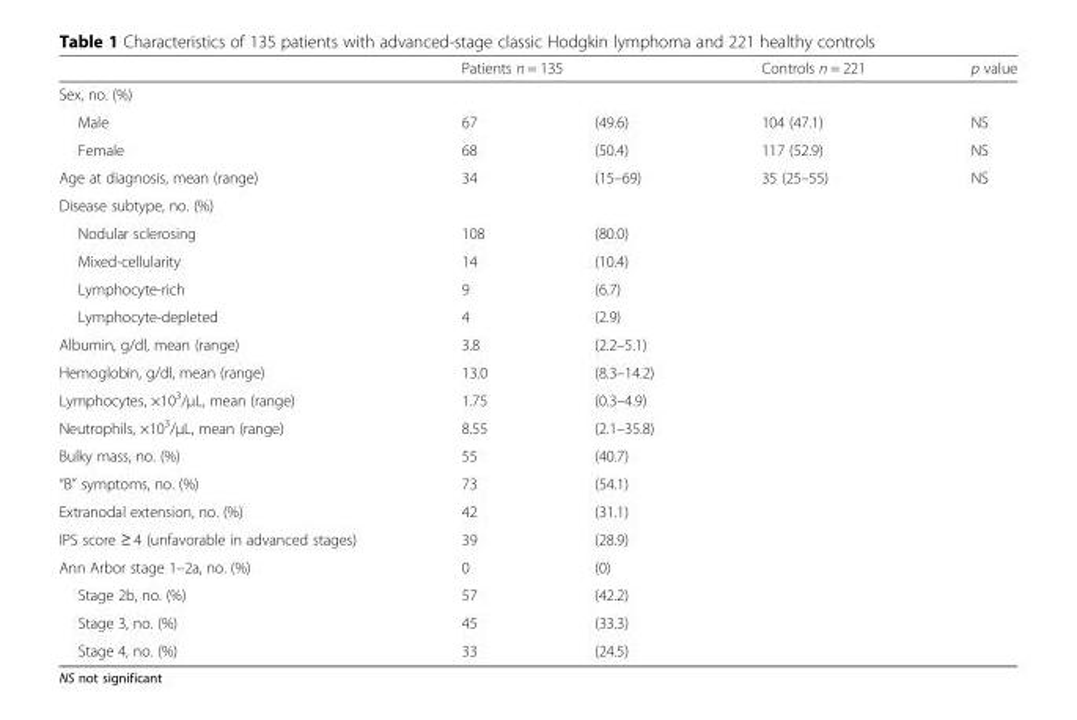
<table><thead><tr><td rowspan="2">Sex, no. (%)</td><td colspan="2">Patients n = 135</td><td rowspan="2">Controls n = 221</td><td rowspan="2">p value</td></tr><tr><td></td><td></td></tr></thead><tbody><tr><td>Male</td><td>67</td><td>(49.6)</td><td>104 (47.1)</td><td>NS</td></tr><tr><td>Female</td><td>68</td><td>(50.4)</td><td>117 (52.9)</td><td>NS</td></tr><tr><td>Age at diagnosis, mean (range)</td><td>34</td><td>(15–69)</td><td>35 (25–55)</td><td>NS</td></tr><tr><td colspan="5">Disease subtype, no. (%)</td></tr><tr><td>Nodular sclerosing</td><td>108</td><td>(80.0)</td><td></td><td></td></tr><tr><td>Mixed-cellularity</td><td>14</td><td>(10.4)</td><td></td><td></td></tr><tr><td>Lymphocyte-rich</td><td>9</td><td>(6.7)</td><td></td><td></td></tr><tr><td>Lymphocyte-depleted</td><td>4</td><td>(2.9)</td><td></td><td></td></tr><tr><td>Albumin, g/dl, mean (range)</td><td>3.8</td><td>(2.2–5.1)</td><td></td><td></td></tr><tr><td>Hemoglobin, g/dl, mean (range)</td><td>13.0</td><td>(8.3–14.2)</td><td></td><td></td></tr><tr><td>Lymphocytes, ×10<sup>3</sup>/μL, mean (range)</td><td>1.75</td><td>(0.3–4.9)</td><td></td><td></td></tr><tr><td>Neutrophils, ×10<sup>3</sup>/μL, mean (range)</td><td>8.55</td><td>(2.1–35.8)</td><td></td><td></td></tr><tr><td>Bulky mass, no. (%)</td><td>55</td><td>(40.7)</td><td></td><td></td></tr><tr><td>“B” symptoms, no. (%)</td><td>73</td><td>(54.1)</td><td></td><td></td></tr><tr><td>Extranodal extension, no. (%)</td><td>42</td><td>(31.1)</td><td></td><td></td></tr><tr><td>IPS score ≥ 4 (unfavorable in advanced stages)</td><td>39</td><td>(28.9)</td><td></td><td></td></tr><tr><td>Ann Arbor stage 1–2a, no. (%)</td><td>0</td><td>(0)</td><td></td><td></td></tr><tr><td>Stage 2b, no. (%)</td><td>57</td><td>(42.2)</td><td></td><td></td></tr><tr><td>Stage 3, no. (%)</td><td>45</td><td>(33.3)</td><td></td><td></td></tr><tr><td>Stage 4, no. (%)</td><td>33</td><td>(24.5)</td><td></td><td></td></tr></tbody></table>